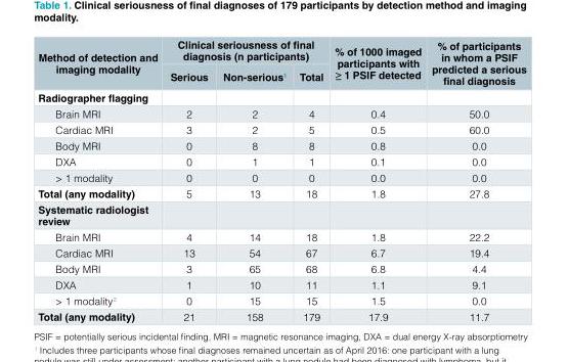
<table><thead><tr><td rowspan="2">Method of detection and imaging modality</td><td colspan="3">Clinical seriousness of final diagnosis (n participants)</td><td rowspan="2">% of 1000 imaged participants with ≥ 1 PSIF detected</td><td rowspan="2">% of participants in whom a PSIF predicted a serious final diagnosis</td></tr><tr><td>Serious</td><td>Non-serious<sup>1</sup></td><td>Total</td></tr></thead><tbody><tr><td colspan="6">Radiographer flagging</td></tr><tr><td>Brain MRI</td><td>2</td><td>2</td><td>4</td><td>0.4</td><td>50.0</td></tr><tr><td>Cardiac MRI</td><td>3</td><td>2</td><td>5</td><td>0.5</td><td>60.0</td></tr><tr><td>Body MRI</td><td>0</td><td>8</td><td>8</td><td>0.8</td><td>0.0</td></tr><tr><td>DXA</td><td>0</td><td>1</td><td>1</td><td>0.1</td><td>0.0</td></tr><tr><td>&gt; 1 modality</td><td>0</td><td>0</td><td>0</td><td>0.0</td><td>0.0</td></tr><tr><td>Total (any modality)</td><td>5</td><td>13</td><td>18</td><td>1.8</td><td>27.8</td></tr><tr><td colspan="6">Systematic radiologist review</td></tr><tr><td>Brain MRI</td><td>4</td><td>14</td><td>18</td><td>1.8</td><td>22.2</td></tr><tr><td>Cardiac MRI</td><td>13</td><td>54</td><td>67</td><td>6.7</td><td>19.4</td></tr><tr><td>Body MRI</td><td>3</td><td>65</td><td>68</td><td>6.8</td><td>4.4</td></tr><tr><td>DXA</td><td>1</td><td>10</td><td>11</td><td>1.1</td><td>9.1</td></tr><tr><td>&gt; 1 modality<sup>2</sup></td><td>0</td><td>15</td><td>15</td><td>1.5</td><td>0.0</td></tr><tr><td>Total (any modality)</td><td>21</td><td>158</td><td>179</td><td>17.9</td><td>11.7</td></tr></tbody></table>